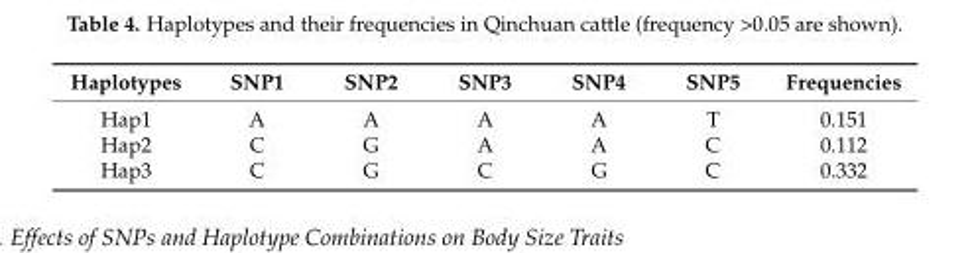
<table><thead><tr><td>Haplotypes</td><td>SNP1</td><td>SNP2</td><td>SNP3</td><td>SNP4</td><td>SNP5</td><td>Frequencies</td></tr></thead><tbody><tr><td>Hap1</td><td>A</td><td>A</td><td>A</td><td>A</td><td>T</td><td>0.151</td></tr><tr><td>Hap2</td><td>C</td><td>G</td><td>A</td><td>A</td><td>C</td><td>0.112</td></tr><tr><td>Hap3</td><td>C</td><td>G</td><td>C</td><td>G</td><td>C</td><td>0.332</td></tr></tbody></table>